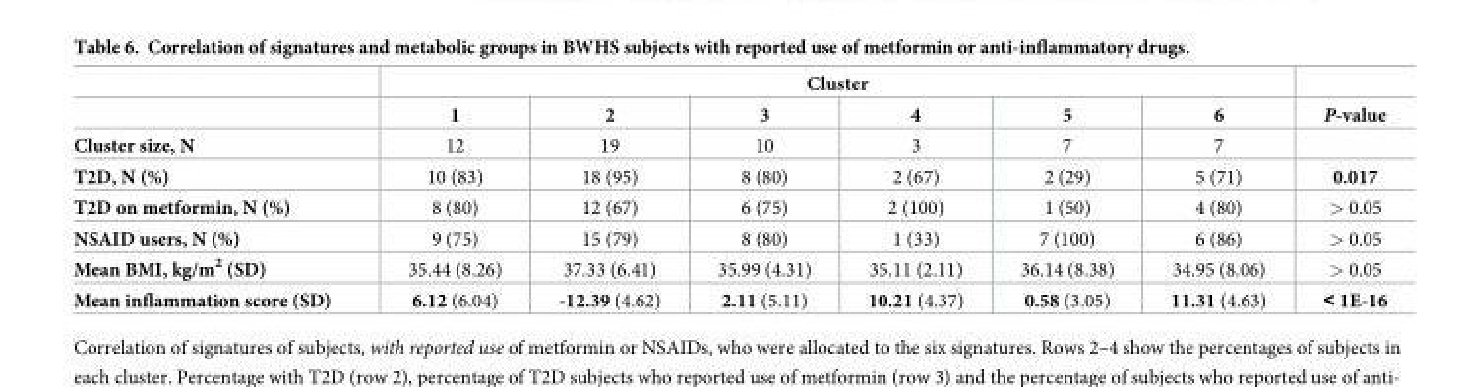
<table><thead><tr><td rowspan="2"></td><td colspan="6">Cluster</td><td rowspan="2">P-value</td></tr><tr><td>1</td><td>2</td><td>3</td><td>4</td><td>5</td><td>6</td></tr></thead><tbody><tr><td>Cluster size, N</td><td>12</td><td>19</td><td>10</td><td>3</td><td>7</td><td>7</td><td></td></tr><tr><td>T2D, N (%)</td><td>10 (83)</td><td>18 (95)</td><td>8 (80)</td><td>2 (67)</td><td>2 (29)</td><td>5 (71)</td><td>0.017</td></tr><tr><td>T2D on metformin, N (%)</td><td>8 (80)</td><td>12 (67)</td><td>6 (75)</td><td>2 (100)</td><td>1 (50)</td><td>4 (80)</td><td>&gt; 0.05</td></tr><tr><td>NSAID users, N (%)</td><td>9 (75)</td><td>15 (79)</td><td>8 (80)</td><td>1 (33)</td><td>7 (100)</td><td>6 (86)</td><td>&gt; 0.05</td></tr><tr><td>Mean BMI, kg/m<sup>2</sup> (SD)</td><td>35.44 (8.26)</td><td>37.33 (6.41)</td><td>35.99 (4.31)</td><td>35.11 (2.11)</td><td>36.14 (8.38)</td><td>34.95 (8.06)</td><td>&gt; 0.05</td></tr><tr><td>Mean inflammation score (SD)</td><td>6.12 (6.04)</td><td>-12.39 (4.62)</td><td>2.11 (5.11)</td><td>10.21 (4.37)</td><td>0.58 (3.05)</td><td>11.31 (4.63)</td><td>&lt; 1E-16</td></tr></tbody></table>